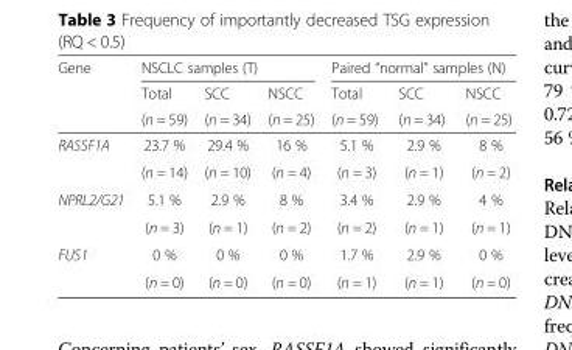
<table><thead><tr><td rowspan="3">Gene</td><td colspan="3">NSCLC samples (T)</td><td colspan="3">Paired “normal” samples (N)</td></tr><tr><td rowspan="2">Total (n = 59)</td><td rowspan="2">SCC (n = 34)</td><td rowspan="2">NSCC (n = 25)</td><td rowspan="2">Total (n = 59)</td><td rowspan="2">SCC (n = 34)</td><td rowspan="2">NSCC (n = 25)</td></tr><tr></tr></thead><tbody><tr><td rowspan="2">RASSF1A</td><td>23.7 %</td><td>29.4 %</td><td>16 %</td><td>5.1 %</td><td>2.9 %</td><td>8 %</td></tr><tr><td>(n = 14)</td><td>(n = 10)</td><td>(n = 4)</td><td>(n = 3)</td><td>(n = 1)</td><td>(n = 2)</td></tr><tr><td rowspan="2">NPRL2/G21</td><td>5.1 %</td><td>2.9 %</td><td>8 %</td><td>3.4 %</td><td>2.9 %</td><td>4 %</td></tr><tr><td>(n = 3)</td><td>(n = 1)</td><td>(n = 2)</td><td>(n = 2)</td><td>(n = 1)</td><td>(n = 1)</td></tr><tr><td rowspan="2">FUS1</td><td>0 %</td><td>0 %</td><td>0 %</td><td>1.7 %</td><td>2.9 %</td><td>0 %</td></tr><tr><td>(n = 0)</td><td>(n = 0)</td><td>(n = 0)</td><td>(n = 1)</td><td>(n = 1)</td><td>(n = 0)</td></tr></tbody></table>